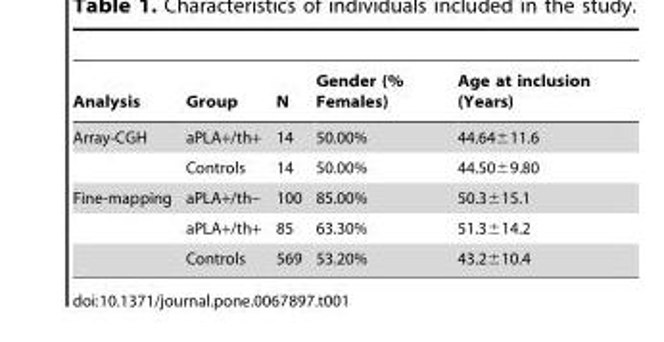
<table><thead><tr><td>Analysis</td><td>Group</td><td>N</td><td>Gender (% Females)</td><td>Age at inclusion (Years)</td></tr></thead><tbody><tr><td rowspan="2">Array-CGH</td><td>aPLA+/th+</td><td>14</td><td>50.00%</td><td>44.64±11.6</td></tr><tr><td>Controls</td><td>14</td><td>50.00%</td><td>44.50±9.80</td></tr><tr><td rowspan="3">Fine-mapping</td><td>aPLA+/th–</td><td>100</td><td>85.00%</td><td>50.3±15.1</td></tr><tr><td>aPLA+/th+</td><td>85</td><td>63.30%</td><td>51.3±14.2</td></tr><tr><td>Controls</td><td>569</td><td>53.20%</td><td>43.2±10.4</td></tr></tbody></table>